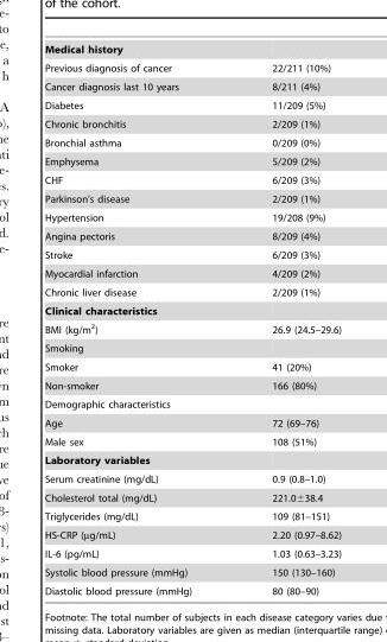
<table><tbody><tr><td colspan="2">Medical history</td></tr><tr><td>Previous diagnosis of cancer</td><td>22/211 (10%)</td></tr><tr><td>Cancer diagnosis last 10 years</td><td>8/211 (4%)</td></tr><tr><td>Diabetes</td><td>11/209 (5%)</td></tr><tr><td>Chronic bronchitis</td><td>2/209 (1%)</td></tr><tr><td>Bronchial asthma</td><td>0/209 (0%)</td></tr><tr><td>Emphysema</td><td>5/209 (2%)</td></tr><tr><td>CHF</td><td>6/209 (3%)</td></tr><tr><td>Parkinson’s disease</td><td>2/209 (1%)</td></tr><tr><td>Hypertension</td><td>19/208 (9%)</td></tr><tr><td>Angina pectoris</td><td>8/209 (4%)</td></tr><tr><td>Stroke</td><td>6/209 (3%)</td></tr><tr><td>Myocardial infarction</td><td>4/209 (2%)</td></tr><tr><td>Chronic liver disease</td><td>2/209 (1%)</td></tr><tr><td colspan="2">Clinical characteristics</td></tr><tr><td>BMI (kg/m<sup>2</sup>)</td><td>26.9 (24.5–29.6)</td></tr><tr><td colspan="2">Smoking</td></tr><tr><td>Smoker</td><td>41 (20%)</td></tr><tr><td>Non-smoker</td><td>166 (80%)</td></tr><tr><td colspan="2">Demographic characteristics</td></tr><tr><td>Age</td><td>72 (69–76)</td></tr><tr><td>Male sex</td><td>108 (51%)</td></tr><tr><td colspan="2">Laboratory variables</td></tr><tr><td>Serum creatinine (mg/dL)</td><td>0.9 (0.8–1.0)</td></tr><tr><td>Cholesterol total (mg/dL)</td><td>221.0±38.4</td></tr><tr><td>Triglycerides (mg/dL)</td><td>109 (81–151)</td></tr><tr><td>HS-CRP (µg/mL)</td><td>2.20 (0.97–8.62)</td></tr><tr><td>IL-6 (pg/mL)</td><td>1.03 (0.63–3.23)</td></tr><tr><td>Systolic blood pressure (mmHg)</td><td>150 (130–160)</td></tr><tr><td>Diastolic blood pressure (mmHg)</td><td>80 (80–90)</td></tr></tbody></table>